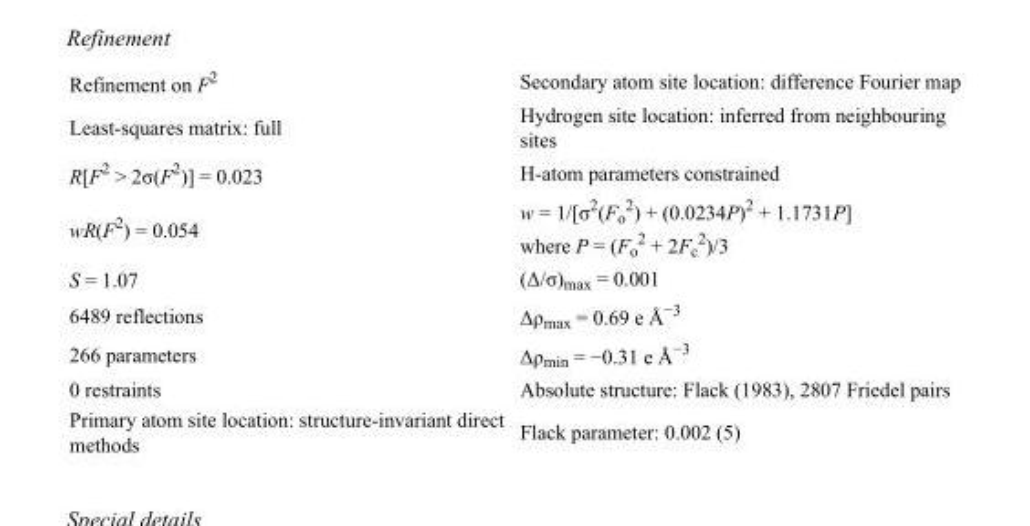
<table><tbody><tr><td>Refinement on F<sup>2</sup></td><td>Secondary atom site location: difference Fourier map</td></tr><tr><td>Least-squares matrix: full</td><td>Hydrogen site location: inferred from neighbouring sites</td></tr><tr><td>R[F<sup>2</sup> &gt; 2σ(F<sup>2</sup>)] = 0.023</td><td>H-atom parameters constrained</td></tr><tr><td>wR(F<sup>2</sup>) = 0.054</td><td>w = 1/[σ<sup>2</sup>(F<sub>o</sub> <sup>2</sup>) + (0.0234P)<sup>2</sup> + 1.1731P] where P = (F<sub>o</sub> <sup>2</sup> + 2F<sub>c</sub> <sup>2</sup>)/3</td></tr><tr><td>S = 1.07</td><td>(Δ/σ)<sub>max</sub> = 0.001</td></tr><tr><td>6489 reflections</td><td>Δρ<sub>max</sub> = 0.69 e Å<sup>−3</sup></td></tr><tr><td>266 parameters</td><td>Δρ<sub>min</sub> = −0.31 e Å<sup>−3</sup></td></tr><tr><td>0 restraints</td><td>Absolute structure: Flack (1983), 2807 Friedel pairs</td></tr><tr><td>Primary atom site location: structure-invariant direct methods</td><td>Flack parameter: 0.002 (5)</td></tr></tbody></table>